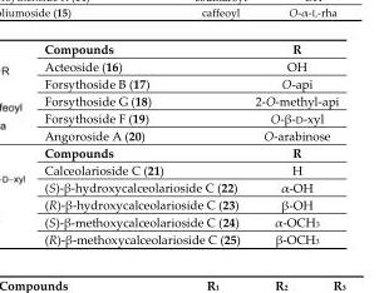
<table><tbody><tr><td>Compounds</td><td>R</td></tr><tr><td>Acteoside (16)</td><td>OH</td></tr><tr><td>Forsythoside B (17)</td><td>O-api</td></tr><tr><td>Forsythoside G (18)</td><td>2-O-methyl-api</td></tr><tr><td>Forsythoside F (19)</td><td>O-β-D-xyl</td></tr><tr><td>Angoroside A (20)</td><td>O-arabinose</td></tr><tr><td>Compounds</td><td>R</td></tr><tr><td>Calceolarioside C (21)</td><td>H</td></tr><tr><td>(S)-β-hydroxycalceolarioside C (22)</td><td>α-OH</td></tr><tr><td>(R)-β-hydroxycalceolarioside C (23)</td><td>β-OH</td></tr><tr><td>(S)-β-methoxycalceolarioside C (24)</td><td>α-OCH<sub>3</sub></td></tr><tr><td>(R)-β-methoxycalceolarioside C (25)</td><td>β-OCH<sub>3</sub></td></tr></tbody></table>